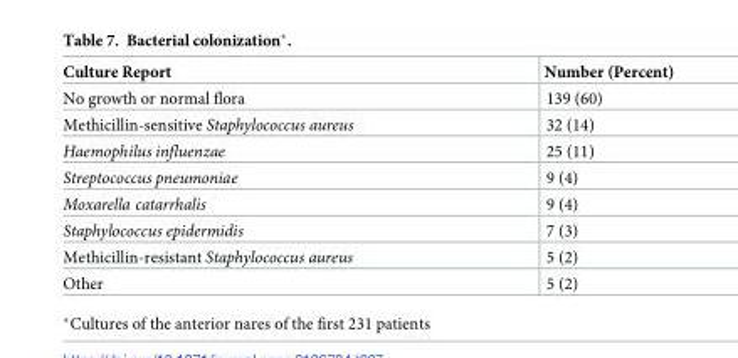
<table><thead><tr><td>Culture Report</td><td>Number (Percent)</td></tr></thead><tbody><tr><td>No growth or normal flora</td><td>139 (60)</td></tr><tr><td>Methicillin-sensitive Staphylococcus aureus</td><td>32 (14)</td></tr><tr><td>Haemophilus influenzae</td><td>25 (11)</td></tr><tr><td>Streptococcus pneumoniae</td><td>9 (4)</td></tr><tr><td>Moxarella catarrhalis</td><td>9 (4)</td></tr><tr><td>Staphylococcus epidermidis</td><td>7 (3)</td></tr><tr><td>Methicillin-resistant Staphylococcus aureus</td><td>5 (2)</td></tr><tr><td>Other</td><td>5 (2)</td></tr></tbody></table>